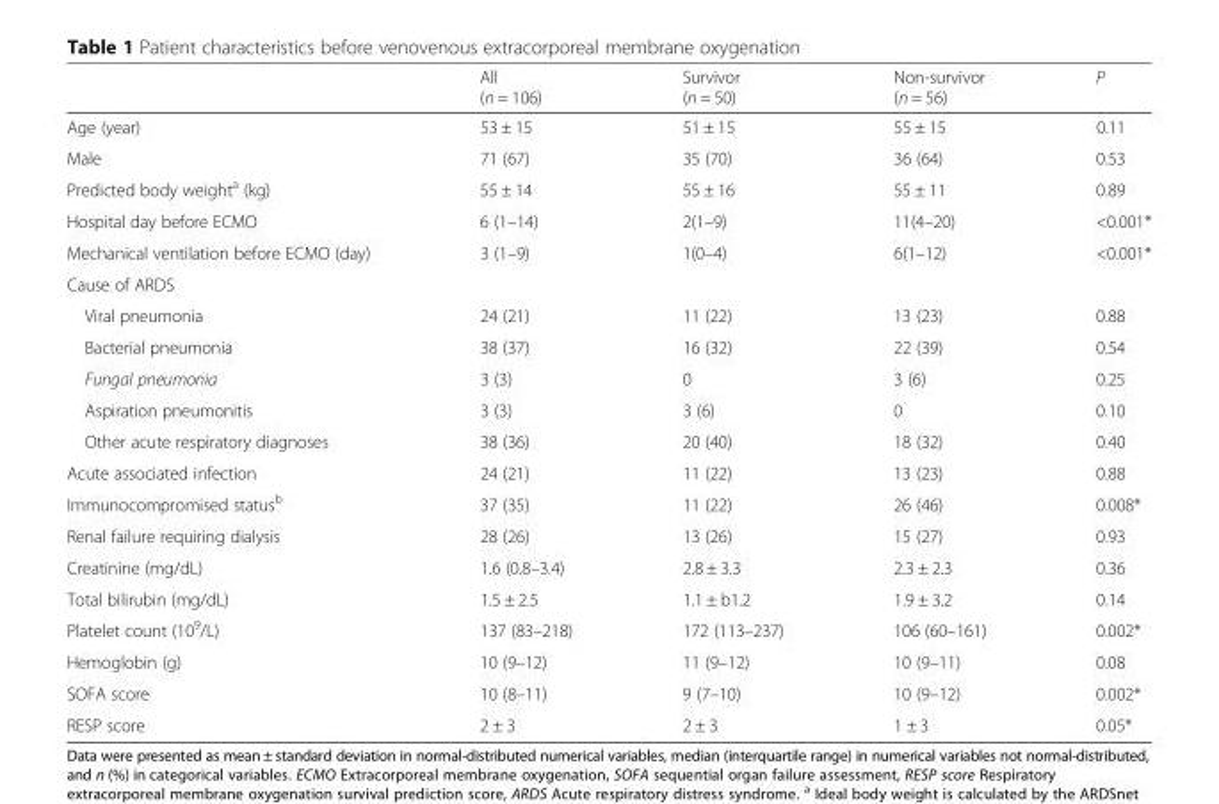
<table><thead><tr><td></td><td>All (n = 106)</td><td>Survivor (n = 50)</td><td>Non-survivor (n = 56)</td><td>P</td></tr></thead><tbody><tr><td>Age (year)</td><td>53 ± 15</td><td>51 ± 15</td><td>55 ± 15</td><td>0.11</td></tr><tr><td>Male</td><td>71 (67)</td><td>35 (70)</td><td>36 (64)</td><td>0.53</td></tr><tr><td>Predicted body weight<sup>a</sup> (kg)</td><td>55 ± 14</td><td>55 ± 16</td><td>55 ± 11</td><td>0.89</td></tr><tr><td>Hospital day before ECMO</td><td>6 (1–14)</td><td>2(1–9)</td><td>11(4–20)</td><td>&lt;0.001*</td></tr><tr><td>Mechanical ventilation before ECMO (day)</td><td>3 (1–9)</td><td>1(0–4)</td><td>6(1–12)</td><td>&lt;0.001*</td></tr><tr><td colspan="5">Cause of ARDS</td></tr><tr><td>Viral pneumonia</td><td>24 (21)</td><td>11 (22)</td><td>13 (23)</td><td>0.88</td></tr><tr><td>Bacterial pneumonia</td><td>38 (37)</td><td>16 (32)</td><td>22 (39)</td><td>0.54</td></tr><tr><td>Fungal pneumonia</td><td>3 (3)</td><td>0</td><td>3 (6)</td><td>0.25</td></tr><tr><td>Aspiration pneumonitis</td><td>3 (3)</td><td>3 (6)</td><td>0</td><td>0.10</td></tr><tr><td>Other acute respiratory diagnoses</td><td>38 (36)</td><td>20 (40)</td><td>18 (32)</td><td>0.40</td></tr><tr><td>Acute associated infection</td><td>24 (21)</td><td>11 (22)</td><td>13 (23)</td><td>0.88</td></tr><tr><td>Immunocompromised status<sup>b</sup></td><td>37 (35)</td><td>11 (22)</td><td>26 (46)</td><td>0.008*</td></tr><tr><td>Renal failure requiring dialysis</td><td>28 (26)</td><td>13 (26)</td><td>15 (27)</td><td>0.93</td></tr><tr><td>Creatinine (mg/dL)</td><td>1.6 (0.8–3.4)</td><td>2.8 ± 3.3</td><td>2.3 ± 2.3</td><td>0.36</td></tr><tr><td>Total bilirubin (mg/dL)</td><td>1.5 ± 2.5</td><td>1.1 ± b1.2</td><td>1.9 ± 3.2</td><td>0.14</td></tr><tr><td>Platelet count (10<sup>9</sup>/L)</td><td>137 (83–218)</td><td>172 (113–237)</td><td>106 (60–161)</td><td>0.002*</td></tr><tr><td>Hemoglobin (g)</td><td>10 (9–12)</td><td>11 (9–12)</td><td>10 (9–11)</td><td>0.08</td></tr><tr><td>SOFA score</td><td>10 (8–11)</td><td>9 (7–10)</td><td>10 (9–12)</td><td>0.002*</td></tr><tr><td>RESP score</td><td>2 ± 3</td><td>2 ± 3</td><td>1 ± 3</td><td>0.05*</td></tr></tbody></table>